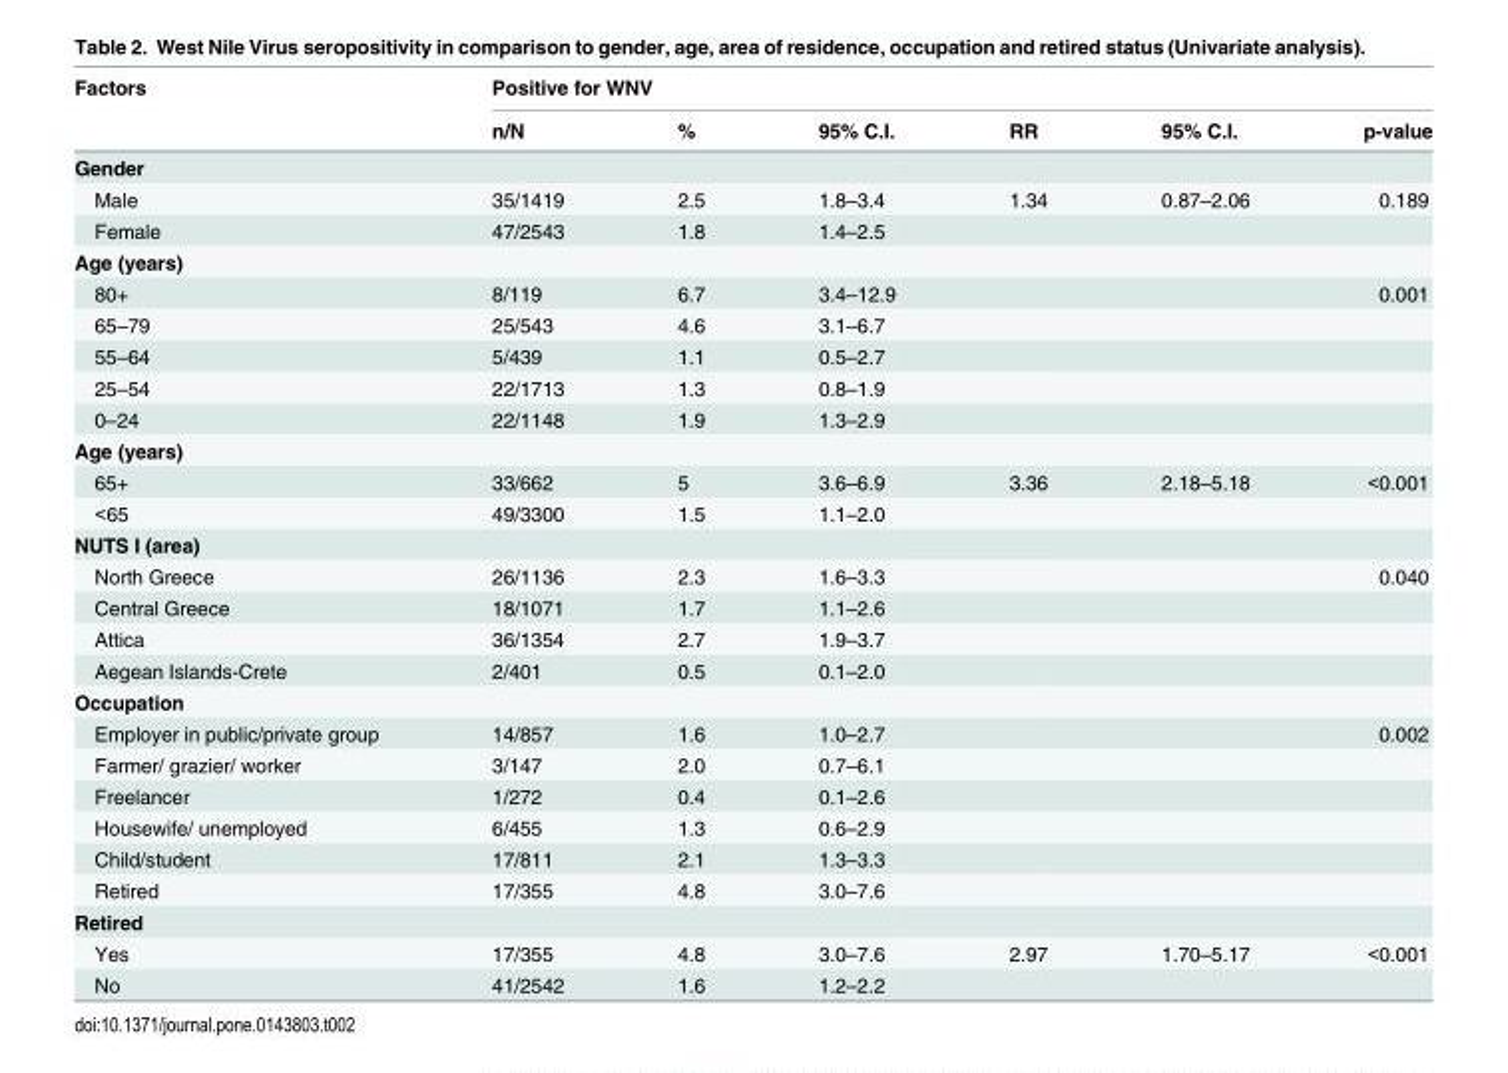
<table><thead><tr><td rowspan="2">Factors</td><td colspan="6">Positive for WNV</td></tr><tr><td>n/N</td><td>%</td><td>95% C.I.</td><td>RR</td><td>95% C.I.</td><td>p-value</td></tr></thead><tbody><tr><td colspan="7">Gender</td></tr><tr><td>Male</td><td>35/1419</td><td>2.5</td><td>1.8–3.4</td><td>1.34</td><td>0.87–2.06</td><td>0.189</td></tr><tr><td>Female</td><td>47/2543</td><td>1.8</td><td>1.4–2.5</td><td></td><td></td><td></td></tr><tr><td colspan="7">Age (years)</td></tr><tr><td>80+</td><td>8/119</td><td>6.7</td><td>3.4–12.9</td><td></td><td></td><td>0.001</td></tr><tr><td>65–79</td><td>25/543</td><td>4.6</td><td>3.1–6.7</td><td></td><td></td><td></td></tr><tr><td>55–64</td><td>5/439</td><td>1.1</td><td>0.5–2.7</td><td></td><td></td><td></td></tr><tr><td>25–54</td><td>22/1713</td><td>1.3</td><td>0.8–1.9</td><td></td><td></td><td></td></tr><tr><td>0–24</td><td>22/1148</td><td>1.9</td><td>1.3–2.9</td><td></td><td></td><td></td></tr><tr><td colspan="7">Age (years)</td></tr><tr><td>65+</td><td>33/662</td><td>5</td><td>3.6–6.9</td><td>3.36</td><td>2.18–5.18</td><td>&lt;0.001</td></tr><tr><td>&lt;65</td><td>49/3300</td><td>1.5</td><td>1.1–2.0</td><td></td><td></td><td></td></tr><tr><td colspan="7">NUTS I (area)</td></tr><tr><td>North Greece</td><td>26/1136</td><td>2.3</td><td>1.6–3.3</td><td></td><td></td><td>0.040</td></tr><tr><td>Central Greece</td><td>18/1071</td><td>1.7</td><td>1.1–2.6</td><td></td><td></td><td></td></tr><tr><td>Attica</td><td>36/1354</td><td>2.7</td><td>1.9–3.7</td><td></td><td></td><td></td></tr><tr><td>Aegean Islands-Crete</td><td>2/401</td><td>0.5</td><td>0.1–2.0</td><td></td><td></td><td></td></tr><tr><td colspan="7">Occupation</td></tr><tr><td>Employer in public/private group</td><td>14/857</td><td>1.6</td><td>1.0–2.7</td><td></td><td></td><td>0.002</td></tr><tr><td>Farmer/ grazier/ worker</td><td>3/147</td><td>2.0</td><td>0.7–6.1</td><td></td><td></td><td></td></tr><tr><td>Freelancer</td><td>1/272</td><td>0.4</td><td>0.1–2.6</td><td></td><td></td><td></td></tr><tr><td>Housewife/ unemployed</td><td>6/455</td><td>1.3</td><td>0.6–2.9</td><td></td><td></td><td></td></tr><tr><td>Child/student</td><td>17/811</td><td>2.1</td><td>1.3–3.3</td><td></td><td></td><td></td></tr><tr><td>Retired</td><td>17/355</td><td>4.8</td><td>3.0–7.6</td><td></td><td></td><td></td></tr><tr><td colspan="7">Retired</td></tr><tr><td>Yes</td><td>17/355</td><td>4.8</td><td>3.0–7.6</td><td>2.97</td><td>1.70–5.17</td><td>&lt;0.001</td></tr><tr><td>No</td><td>41/2542</td><td>1.6</td><td>1.2–2.2</td><td></td><td></td><td></td></tr></tbody></table>